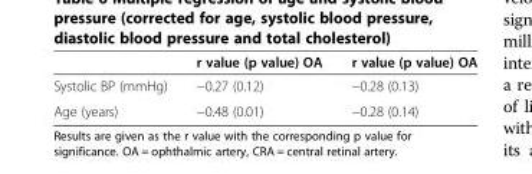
<table><thead><tr><td></td><td>r value (p value) OA</td><td>r value (p value) OA</td></tr></thead><tbody><tr><td>Systolic BP (mmHg)</td><td>−0.27 (0.12)</td><td>−0.28 (0.13)</td></tr><tr><td>Age (years)</td><td>−0.48 (0.01)</td><td>−0.28 (0.14)</td></tr></tbody></table>